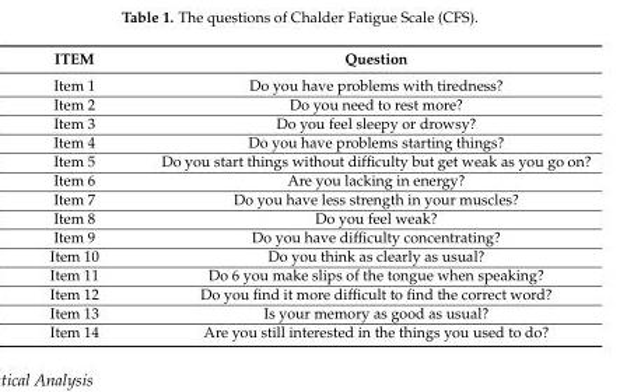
<table><thead><tr><td>ITEM</td><td>Question</td></tr></thead><tbody><tr><td>Item 1</td><td>Do you have problems with tiredness?</td></tr><tr><td>Item 2</td><td>Do you need to rest more?</td></tr><tr><td>Item 3</td><td>Do you feel sleepy or drowsy?</td></tr><tr><td>Item 4</td><td>Do you have problems starting things?</td></tr><tr><td>Item 5</td><td>Do you start things without difficulty but get weak as you go on?</td></tr><tr><td>Item 6</td><td>Are you lacking in energy?</td></tr><tr><td>Item 7</td><td>Do you have less strength in your muscles?</td></tr><tr><td>Item 8</td><td>Do you feel weak?</td></tr><tr><td>Item 9</td><td>Do you have difficulty concentrating?</td></tr><tr><td>Item 10</td><td>Do you think as clearly as usual?</td></tr><tr><td>Item 11</td><td>Do 6 you make slips of the tongue when speaking?</td></tr><tr><td>Item 12</td><td>Do you find it more difficult to find the correct word?</td></tr><tr><td>Item 13</td><td>Is your memory as good as usual?</td></tr><tr><td>Item 14</td><td>Are you still interested in the things you used to do?</td></tr></tbody></table>